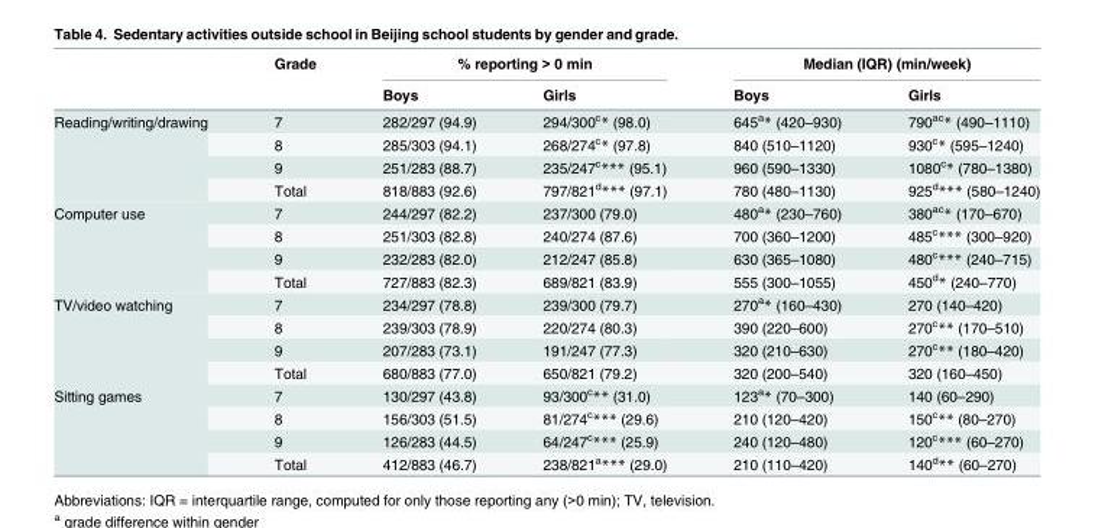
<table><thead><tr><td rowspan="2"></td><td rowspan="2">Grade</td><td colspan="2">% reporting &gt; 0 min</td><td colspan="2">Median (IQR) (min/week)</td></tr><tr><td>Boys</td><td>Girls</td><td>Boys</td><td>Girls</td></tr></thead><tbody><tr><td rowspan="4">Reading/writing/drawing</td><td>7</td><td>282/297 (94.9)</td><td>294/300<sup>c</sup>* (98.0)</td><td>645<sup>a</sup>* (420–930)</td><td>790<sup>ac</sup>* (490–1110)</td></tr><tr><td>8</td><td>285/303 (94.1)</td><td>268/274<sup>c</sup>* (97.8)</td><td>840 (510–1120)</td><td>930<sup>c</sup>* (595–1240)</td></tr><tr><td>9</td><td>251/283 (88.7)</td><td>235/247<sup>c</sup>*** (95.1)</td><td>960 (590–1330)</td><td>1080<sup>c</sup>* (780–1380)</td></tr><tr><td>Total</td><td>818/883 (92.6)</td><td>797/821<sup>d</sup>*** (97.1)</td><td>780 (480–1130)</td><td>925<sup>d</sup>*** (580–1240)</td></tr><tr><td rowspan="4">Computer use</td><td>7</td><td>244/297 (82.2)</td><td>237/300 (79.0)</td><td>480<sup>a</sup>* (230–760)</td><td>380<sup>ac</sup>* (170–670)</td></tr><tr><td>8</td><td>251/303 (82.8)</td><td>240/274 (87.6)</td><td>700 (360–1200)</td><td>485<sup>c</sup>*** (300–920)</td></tr><tr><td>9</td><td>232/283 (82.0)</td><td>212/247 (85.8)</td><td>630 (365–1080)</td><td>480<sup>c</sup>*** (240–715)</td></tr><tr><td>Total</td><td>727/883 (82.3)</td><td>689/821 (83.9)</td><td>555 (300–1055)</td><td>450<sup>d</sup>* (240–770)</td></tr><tr><td rowspan="4">TV/video watching</td><td>7</td><td>234/297 (78.8)</td><td>239/300 (79.7)</td><td>270<sup>a</sup>* (160–430)</td><td>270 (140–420)</td></tr><tr><td>8</td><td>239/303 (78.9)</td><td>220/274 (80.3)</td><td>390 (220–600)</td><td>270<sup>c</sup>** (170–510)</td></tr><tr><td>9</td><td>207/283 (73.1)</td><td>191/247 (77.3)</td><td>320 (210–630)</td><td>270<sup>c</sup>** (180–420)</td></tr><tr><td>Total</td><td>680/883 (77.0)</td><td>650/821 (79.2)</td><td>320 (200–540)</td><td>320 (160–450)</td></tr><tr><td rowspan="4">Sitting games</td><td>7</td><td>130/297 (43.8)</td><td>93/300<sup>c</sup>** (31.0)</td><td>123<sup>a</sup>* (70–300)</td><td>140 (60–290)</td></tr><tr><td>8</td><td>156/303 (51.5)</td><td>81/274<sup>c</sup>*** (29.6)</td><td>210 (120–420)</td><td>150<sup>c</sup>** (80–270)</td></tr><tr><td>9</td><td>126/283 (44.5)</td><td>64/247<sup>c</sup>*** (25.9)</td><td>240 (120–480)</td><td>120<sup>c</sup>*** (60–270)</td></tr><tr><td>Total</td><td>412/883 (46.7)</td><td>238/821<sup>a</sup>*** (29.0)</td><td>210 (110–420)</td><td>140<sup>d</sup>** (60–270)</td></tr></tbody></table>